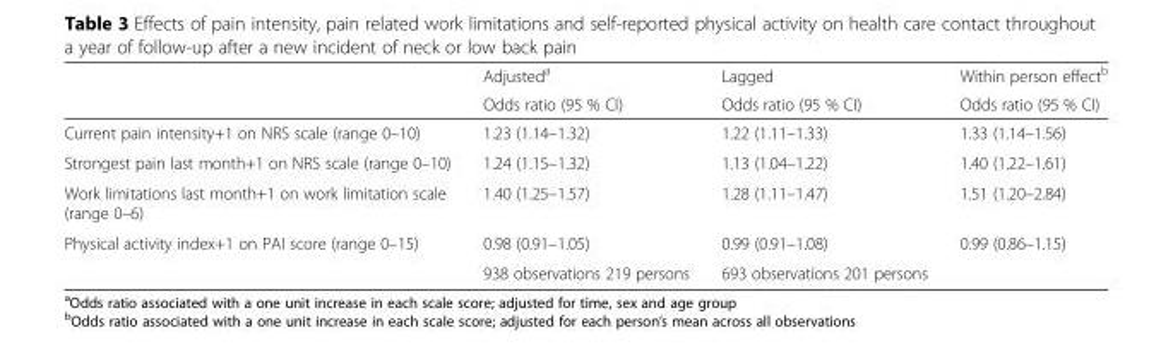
<table><thead><tr><td rowspan="2"></td><td rowspan="2">Adjusted<sup>a</sup> Odds ratio (95 % CI)</td><td rowspan="2">Lagged Odds ratio (95 % CI)</td><td rowspan="2">Within person effect<sup>b</sup> Odds ratio (95 % CI)</td></tr><tr></tr></thead><tbody><tr><td>Current pain intensity+1 on NRS scale (range 0–10)</td><td>1.23 (1.14–1.32)</td><td>1.22 (1.11–1.33)</td><td>1.33 (1.14–1.56)</td></tr><tr><td>Strongest pain last month+1 on NRS scale (range 0–10)</td><td>1.24 (1.15–1.32)</td><td>1.13 (1.04–1.22)</td><td>1.40 (1.22–1.61)</td></tr><tr><td>Work limitations last month+1 on work limitation scale (range 0–6)</td><td>1.40 (1.25–1.57)</td><td>1.28 (1.11–1.47)</td><td>1.51 (1.20–2.84)</td></tr><tr><td rowspan="2">Physical activity index+1 on PAI score (range 0–15)</td><td>0.98 (0.91–1.05)</td><td>0.99 (0.91–1.08)</td><td>0.99 (0.86–1.15)</td></tr><tr><td>938 observations 219 persons</td><td>693 observations 201 persons</td><td></td></tr></tbody></table>